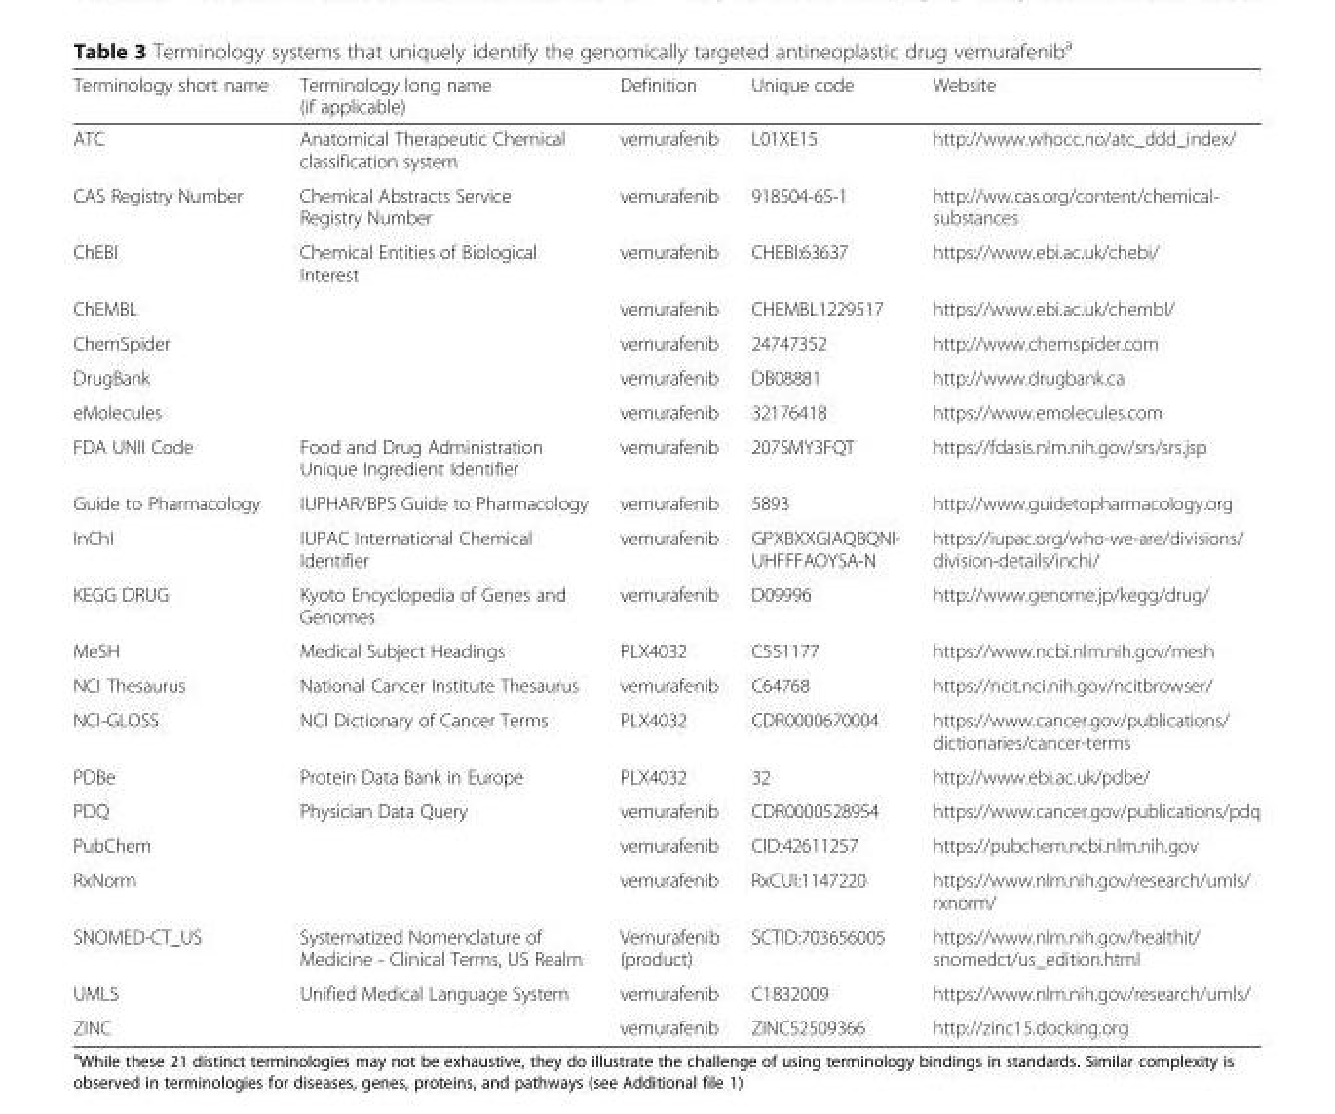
<table><thead><tr><td>Terminology short name</td><td>Terminology long name (if applicable)</td><td>Definition</td><td>Unique code</td><td>Website</td></tr></thead><tbody><tr><td>ATC</td><td>Anatomical Therapeutic Chemical classification system</td><td>vemurafenib</td><td>L01XE15</td><td>http://www.whocc.no/atc_ddd_index/</td></tr><tr><td>CAS Registry Number</td><td>Chemical Abstracts Service Registry Number</td><td>vemurafenib</td><td>918504-65-1</td><td>http://ww.cas.org/content/chemical- substances</td></tr><tr><td>ChEBI</td><td>Chemical Entities of Biological Interest</td><td>vemurafenib</td><td>CHEBI:63637</td><td>https://www.ebi.ac.uk/chebi/</td></tr><tr><td>ChEMBL</td><td></td><td>vemurafenib</td><td>CHEMBL1229517</td><td>https://www.ebi.ac.uk/chembl/</td></tr><tr><td>ChemSpider</td><td></td><td>vemurafenib</td><td>24747352</td><td>http://www.chemspider.com</td></tr><tr><td>DrugBank</td><td></td><td>vemurafenib</td><td>DB08881</td><td>http://www.drugbank.ca</td></tr><tr><td>eMolecules</td><td></td><td>vemurafenib</td><td>32176418</td><td>https://www.emolecules.com</td></tr><tr><td>FDA UNII Code</td><td>Food and Drug Administration Unique Ingredient Identifier</td><td>vemurafenib</td><td>207SMY3FQT</td><td>https://fdasis.nlm.nih.gov/srs/srs.jsp</td></tr><tr><td>Guide to Pharmacology</td><td>IUPHAR/BPS Guide to Pharmacology</td><td>vemurafenib</td><td>5893</td><td>http://www.guidetopharmacology.org</td></tr><tr><td>InChI</td><td>IUPAC International Chemical Identifier</td><td>vemurafenib</td><td>GPXBXXGIAQBQNI- UHFFFAOYSA-N</td><td>https://iupac.org/who-we-are/divisions/ division-details/inchi/</td></tr><tr><td>KEGG DRUG</td><td>Kyoto Encyclopedia of Genes and Genomes</td><td>vemurafenib</td><td>D09996</td><td>http://www.genome.jp/kegg/drug/</td></tr><tr><td>MeSH</td><td>Medical Subject Headings</td><td>PLX4032</td><td>C551177</td><td>https://www.ncbi.nlm.nih.gov/mesh</td></tr><tr><td>NCI Thesaurus</td><td>National Cancer Institute Thesaurus</td><td>vemurafenib</td><td>C64768</td><td>https://ncit.nci.nih.gov/ncitbrowser/</td></tr><tr><td>NCI-GLOSS</td><td>NCI Dictionary of Cancer Terms</td><td>PLX4032</td><td>CDR0000670004</td><td>https://www.cancer.gov/publications/ dictionaries/cancer-terms</td></tr><tr><td>PDBe</td><td>Protein Data Bank in Europe</td><td>PLX4032</td><td>32</td><td>http://www.ebi.ac.uk/pdbe/</td></tr><tr><td>PDQ</td><td>Physician Data Query</td><td>vemurafenib</td><td>CDR0000528954</td><td>https://www.cancer.gov/publications/pdq</td></tr><tr><td>PubChem</td><td></td><td>vemurafenib</td><td>CID:42611257</td><td>https://pubchem.ncbi.nlm.nih.gov</td></tr><tr><td>RxNorm</td><td></td><td>vemurafenib</td><td>RxCUI:1147220</td><td>https://www.nlm.nih.gov/research/umls/ rxnorm/</td></tr><tr><td>SNOMED-CT_US</td><td>Systematized Nomenclature of Medicine - Clinical Terms, US Realm</td><td>Vemurafenib (product)</td><td>SCTID:703656005</td><td>https://www.nlm.nih.gov/healthit/ snomedct/us_edition.html</td></tr><tr><td>UMLS</td><td>Unified Medical Language System</td><td>vemurafenib</td><td>C1832009</td><td>https://www.nlm.nih.gov/research/umls/</td></tr><tr><td>ZINC</td><td></td><td>vemurafenib</td><td>ZINC52509366</td><td>http://zinc15.docking.org</td></tr></tbody></table>